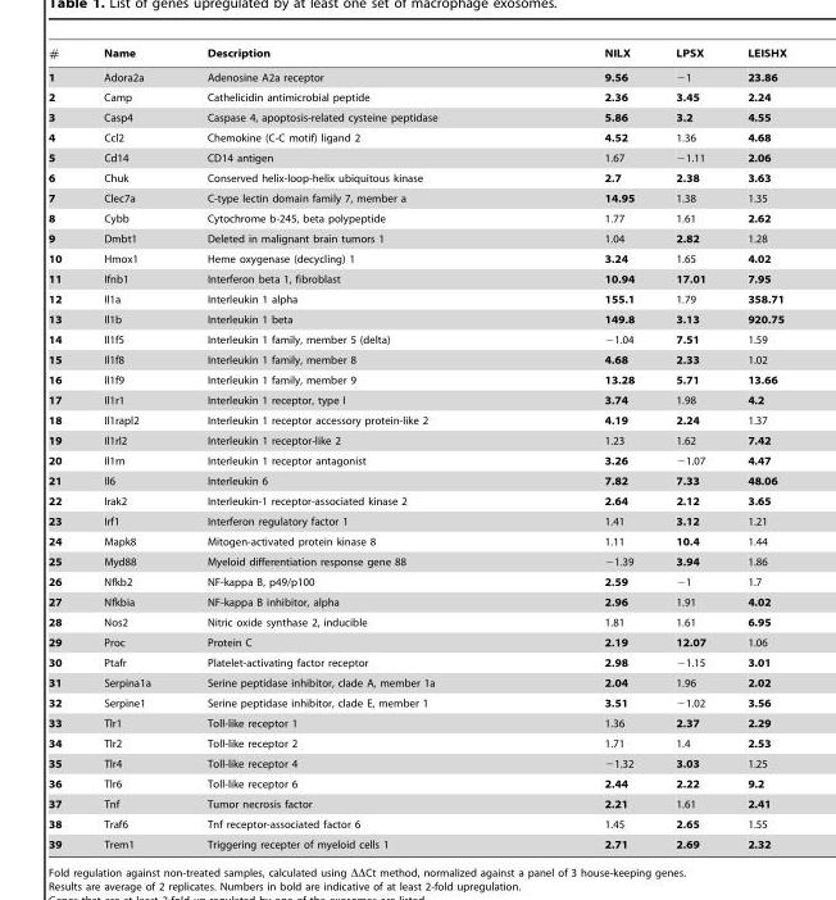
<table><thead><tr><td>#</td><td>Name</td><td>Description</td><td>NILX</td><td>LPSX</td><td>LEISHX</td></tr></thead><tbody><tr><td>1</td><td>Adora2a</td><td>Adenosine A2a receptor</td><td>9.56</td><td>−1</td><td>23.86</td></tr><tr><td>2</td><td>Camp</td><td>Cathelicidin antimicrobial peptide</td><td>2.36</td><td>3.45</td><td>2.24</td></tr><tr><td>3</td><td>Casp4</td><td>Caspase 4, apoptosis-related cysteine peptidase</td><td>5.86</td><td>3.2</td><td>4.55</td></tr><tr><td>4</td><td>Ccl2</td><td>Chemokine (C-C motif) ligand 2</td><td>4.52</td><td>1.36</td><td>4.68</td></tr><tr><td>5</td><td>Cd14</td><td>CD14 antigen</td><td>1.67</td><td>−1.11</td><td>2.06</td></tr><tr><td>6</td><td>Chuk</td><td>Conserved helix-loop-helix ubiquitous kinase</td><td>2.7</td><td>2.38</td><td>3.63</td></tr><tr><td>7</td><td>Clec7a</td><td>C-type lectin domain family 7, member a</td><td>14.95</td><td>1.38</td><td>1.35</td></tr><tr><td>8</td><td>Cybb</td><td>Cytochrome b-245, beta polypeptide</td><td>1.77</td><td>1.61</td><td>2.62</td></tr><tr><td>9</td><td>Dmbt1</td><td>Deleted in malignant brain tumors 1</td><td>1.04</td><td>2.82</td><td>1.28</td></tr><tr><td>10</td><td>Hmox1</td><td>Heme oxygenase (decycling) 1</td><td>3.24</td><td>1.65</td><td>4.02</td></tr><tr><td>11</td><td>Ifnb1</td><td>Interferon beta 1, fibroblast</td><td>10.94</td><td>17.01</td><td>7.95</td></tr><tr><td>12</td><td>Il1a</td><td>Interleukin 1 alpha</td><td>155.1</td><td>1.79</td><td>358.71</td></tr><tr><td>13</td><td>Il1b</td><td>Interleukin 1 beta</td><td>149.8</td><td>3.13</td><td>920.75</td></tr><tr><td>14</td><td>Il1f5</td><td>Interleukin 1 family, member 5 (delta)</td><td>−1.04</td><td>7.51</td><td>1.59</td></tr><tr><td>15</td><td>Il1f8</td><td>Interleukin 1 family, member 8</td><td>4.68</td><td>2.33</td><td>1.02</td></tr><tr><td>16</td><td>Il1f9</td><td>Interleukin 1 family, member 9</td><td>13.28</td><td>5.71</td><td>13.66</td></tr><tr><td>17</td><td>Il1r1</td><td>Interleukin 1 receptor, type I</td><td>3.74</td><td>1.98</td><td>4.2</td></tr><tr><td>18</td><td>Il1rapl2</td><td>Interleukin 1 receptor accessory protein-like 2</td><td>4.19</td><td>2.24</td><td>1.37</td></tr><tr><td>19</td><td>Il1rl2</td><td>Interleukin 1 receptor-like 2</td><td>1.23</td><td>1.62</td><td>7.42</td></tr><tr><td>20</td><td>Il1rn</td><td>Interleukin 1 receptor antagonist</td><td>3.26</td><td>−1.07</td><td>4.47</td></tr><tr><td>21</td><td>Il6</td><td>Interleukin 6</td><td>7.82</td><td>7.33</td><td>48.06</td></tr><tr><td>22</td><td>Irak2</td><td>Interleukin-1 receptor-associated kinase 2</td><td>2.64</td><td>2.12</td><td>3.65</td></tr><tr><td>23</td><td>Irf1</td><td>Interferon regulatory factor 1</td><td>1.41</td><td>3.12</td><td>1.21</td></tr><tr><td>24</td><td>Mapk8</td><td>Mitogen-activated protein kinase 8</td><td>1.11</td><td>10.4</td><td>1.44</td></tr><tr><td>25</td><td>Myd88</td><td>Myeloid differentiation response gene 88</td><td>−1.39</td><td>3.94</td><td>1.86</td></tr><tr><td>26</td><td>Nfkb2</td><td>NF-kappa B, p49/p100</td><td>2.59</td><td>−1</td><td>1.7</td></tr><tr><td>27</td><td>Nfkbia</td><td>NF-kappa B inhibitor, alpha</td><td>2.96</td><td>1.91</td><td>4.02</td></tr><tr><td>28</td><td>Nos2</td><td>Nitric oxide synthase 2, inducible</td><td>1.81</td><td>1.61</td><td>6.95</td></tr><tr><td>29</td><td>Proc</td><td>Protein C</td><td>2.19</td><td>12.07</td><td>1.06</td></tr><tr><td>30</td><td>Ptafr</td><td>Platelet-activating factor receptor</td><td>2.98</td><td>−1.15</td><td>3.01</td></tr><tr><td>31</td><td>Serpina1a</td><td>Serine peptidase inhibitor, clade A, member 1a</td><td>2.04</td><td>1.96</td><td>2.02</td></tr><tr><td>32</td><td>Serpine1</td><td>Serine peptidase inhibitor, clade E, member 1</td><td>3.51</td><td>−1.02</td><td>3.56</td></tr><tr><td>33</td><td>Tlr1</td><td>Toll-like receptor 1</td><td>1.36</td><td>2.37</td><td>2.29</td></tr><tr><td>34</td><td>Tlr2</td><td>Toll-like receptor 2</td><td>1.71</td><td>1.4</td><td>2.53</td></tr><tr><td>35</td><td>Tlr4</td><td>Toll-like receptor 4</td><td>−1.32</td><td>3.03</td><td>1.25</td></tr><tr><td>36</td><td>Tlr6</td><td>Toll-like receptor 6</td><td>2.44</td><td>2.22</td><td>9.2</td></tr><tr><td>37</td><td>Tnf</td><td>Tumor necrosis factor</td><td>2.21</td><td>1.61</td><td>2.41</td></tr><tr><td>38</td><td>Traf6</td><td>Tnf receptor-associated factor 6</td><td>1.45</td><td>2.65</td><td>1.55</td></tr><tr><td>39</td><td>Trem1</td><td>Triggering recepter of myeloid cells 1</td><td>2.71</td><td>2.69</td><td>2.32</td></tr></tbody></table>